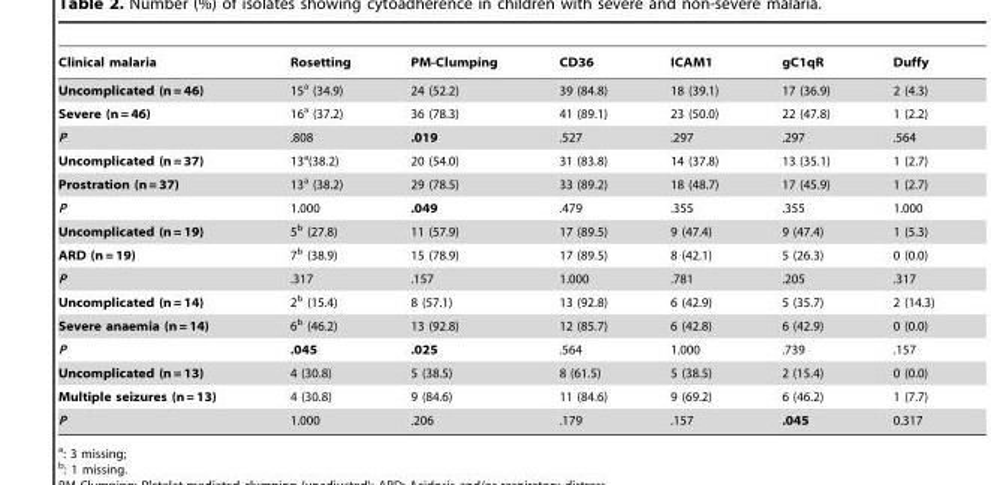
<table><thead><tr><td>Clinical malaria</td><td>Rosetting</td><td>PM-Clumping</td><td>CD36</td><td>ICAM1</td><td>gC1qR</td><td>Duffy</td></tr></thead><tbody><tr><td>Uncomplicated (n = 46)</td><td>15<sup>a</sup> (34.9)</td><td>24 (52.2)</td><td>39 (84.8)</td><td>18 (39.1)</td><td>17 (36.9)</td><td>2 (4.3)</td></tr><tr><td>Severe (n = 46)</td><td>16<sup>a</sup> (37.2)</td><td>36 (78.3)</td><td>41 (89.1)</td><td>23 (50.0)</td><td>22 (47.8)</td><td>1 (2.2)</td></tr><tr><td>P</td><td>.808</td><td>.019</td><td>.527</td><td>.297</td><td>.297</td><td>.564</td></tr><tr><td>Uncomplicated (n = 37)</td><td>13<sup>a</sup>(38.2)</td><td>20 (54.0)</td><td>31 (83.8)</td><td>14 (37.8)</td><td>13 (35.1)</td><td>1 (2.7)</td></tr><tr><td>Prostration (n = 37)</td><td>13<sup>a</sup> (38.2)</td><td>29 (78.5)</td><td>33 (89.2)</td><td>18 (48.7)</td><td>17 (45.9)</td><td>1 (2.7)</td></tr><tr><td>P</td><td>1.000</td><td>.049</td><td>.479</td><td>.355</td><td>.355</td><td>1.000</td></tr><tr><td>Uncomplicated (n = 19)</td><td>5<sup>b</sup> (27.8)</td><td>11 (57.9)</td><td>17 (89.5)</td><td>9 (47.4)</td><td>9 (47.4)</td><td>1 (5.3)</td></tr><tr><td>ARD (n = 19)</td><td>7<sup>b</sup> (38.9)</td><td>15 (78.9)</td><td>17 (89.5)</td><td>8 (42.1)</td><td>5 (26.3)</td><td>0 (0.0)</td></tr><tr><td>P</td><td>.317</td><td>.157</td><td>1.000</td><td>.781</td><td>.205</td><td>.317</td></tr><tr><td>Uncomplicated (n = 14)</td><td>2<sup>b</sup> (15.4)</td><td>8 (57.1)</td><td>13 (92.8)</td><td>6 (42.9)</td><td>5 (35.7)</td><td>2 (14.3)</td></tr><tr><td>Severe anaemia (n = 14)</td><td>6<sup>b</sup> (46.2)</td><td>13 (92.8)</td><td>12 (85.7)</td><td>6 (42.8)</td><td>6 (42.9)</td><td>0 (0.0)</td></tr><tr><td>P</td><td>.045</td><td>.025</td><td>.564</td><td>1.000</td><td>.739</td><td>.157</td></tr><tr><td>Uncomplicated (n = 13)</td><td>4 (30.8)</td><td>5 (38.5)</td><td>8 (61.5)</td><td>5 (38.5)</td><td>2 (15.4)</td><td>0 (0.0)</td></tr><tr><td>Multiple seizures (n = 13)</td><td>4 (30.8)</td><td>9 (84.6)</td><td>11 (84.6)</td><td>9 (69.2)</td><td>6 (46.2)</td><td>1 (7.7)</td></tr><tr><td>P</td><td>1.000</td><td>.206</td><td>.179</td><td>.157</td><td>.045</td><td>0.317</td></tr></tbody></table>